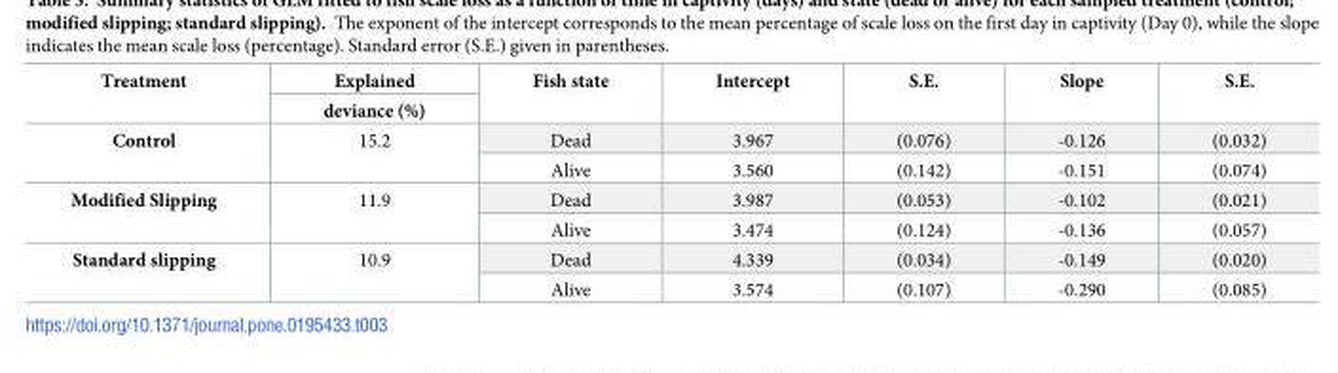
<table><thead><tr><td rowspan="2">Treatment</td><td rowspan="2">Explained deviance (%)</td><td rowspan="2">Fish state</td><td rowspan="2">Intercept</td><td rowspan="2">S.E.</td><td rowspan="2">Slope</td><td rowspan="2">S.E.</td></tr><tr></tr></thead><tbody><tr><td rowspan="2">Control</td><td rowspan="2">15.2</td><td>Dead</td><td>3.967</td><td>(0.076)</td><td>-0.126</td><td>(0.032)</td></tr><tr><td>Alive</td><td>3.560</td><td>(0.142)</td><td>-0.151</td><td>(0.074)</td></tr><tr><td rowspan="2">Modified Slipping</td><td rowspan="2">11.9</td><td>Dead</td><td>3.987</td><td>(0.053)</td><td>-0.102</td><td>(0.021)</td></tr><tr><td>Alive</td><td>3.474</td><td>(0.124)</td><td>-0.136</td><td>(0.057)</td></tr><tr><td rowspan="2">Standard slipping</td><td rowspan="2">10.9</td><td>Dead</td><td>4.339</td><td>(0.034)</td><td>-0.149</td><td>(0.020)</td></tr><tr><td>Alive</td><td>3.574</td><td>(0.107)</td><td>-0.290</td><td>(0.085)</td></tr></tbody></table>